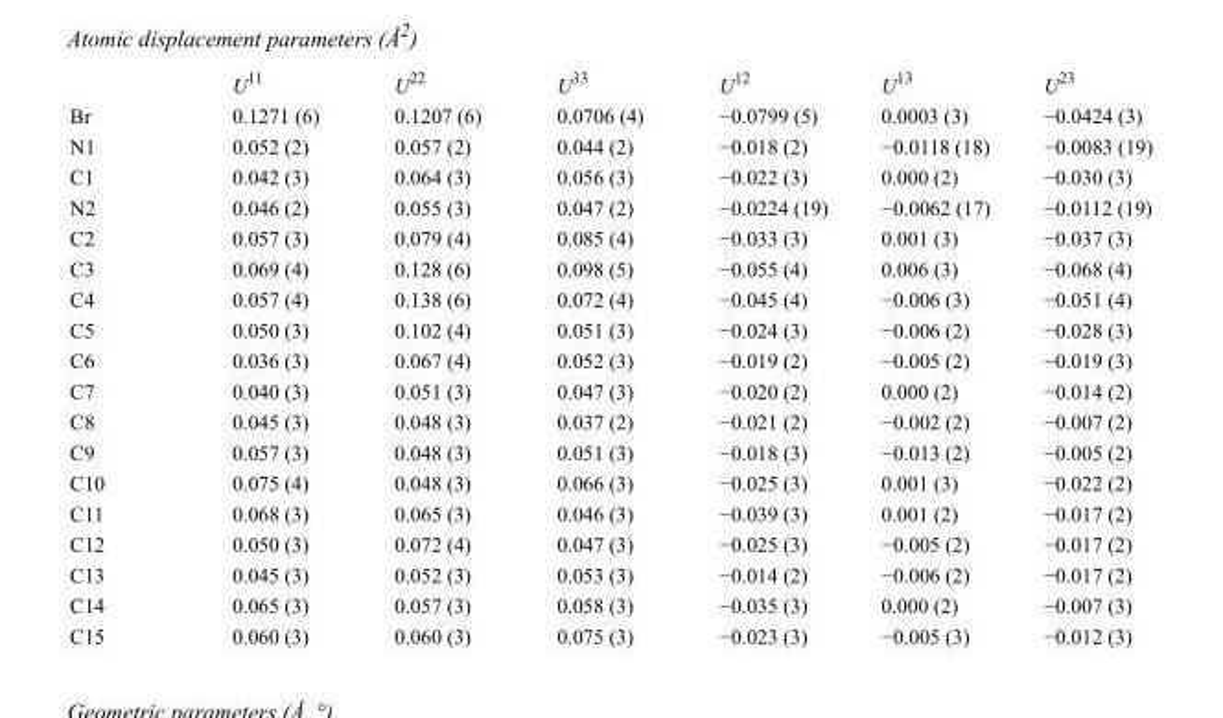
<table><thead><tr><td></td><td>U<sup>11</sup></td><td>U<sup>22</sup></td><td>U<sup>33</sup></td><td>U<sup>12</sup></td><td>U<sup>13</sup></td><td>U<sup>23</sup></td></tr></thead><tbody><tr><td>Br</td><td>0.1271 (6)</td><td>0.1207 (6)</td><td>0.0706 (4)</td><td>−0.0799 (5)</td><td>0.0003 (3)</td><td>−0.0424 (3)</td></tr><tr><td>N1</td><td>0.052 (2)</td><td>0.057 (2)</td><td>0.044 (2)</td><td>−0.018 (2)</td><td>−0.0118 (18)</td><td>−0.0083 (19)</td></tr><tr><td>C1</td><td>0.042 (3)</td><td>0.064 (3)</td><td>0.056 (3)</td><td>−0.022 (3)</td><td>0.000 (2)</td><td>−0.030 (3)</td></tr><tr><td>N2</td><td>0.046 (2)</td><td>0.055 (3)</td><td>0.047 (2)</td><td>−0.0224 (19)</td><td>−0.0062 (17)</td><td>−0.0112 (19)</td></tr><tr><td>C2</td><td>0.057 (3)</td><td>0.079 (4)</td><td>0.085 (4)</td><td>−0.033 (3)</td><td>0.001 (3)</td><td>−0.037 (3)</td></tr><tr><td>C3</td><td>0.069 (4)</td><td>0.128 (6)</td><td>0.098 (5)</td><td>−0.055 (4)</td><td>0.006 (3)</td><td>−0.068 (4)</td></tr><tr><td>C4</td><td>0.057 (4)</td><td>0.138 (6)</td><td>0.072 (4)</td><td>−0.045 (4)</td><td>−0.006 (3)</td><td>−0.051 (4)</td></tr><tr><td>C5</td><td>0.050 (3)</td><td>0.102 (4)</td><td>0.051 (3)</td><td>−0.024 (3)</td><td>−0.006 (2)</td><td>−0.028 (3)</td></tr><tr><td>C6</td><td>0.036 (3)</td><td>0.067 (4)</td><td>0.052 (3)</td><td>−0.019 (2)</td><td>−0.005 (2)</td><td>−0.019 (3)</td></tr><tr><td>C7</td><td>0.040 (3)</td><td>0.051 (3)</td><td>0.047 (3)</td><td>−0.020 (2)</td><td>0.000 (2)</td><td>−0.014 (2)</td></tr><tr><td>C8</td><td>0.045 (3)</td><td>0.048 (3)</td><td>0.037 (2)</td><td>−0.021 (2)</td><td>−0.002 (2)</td><td>−0.007 (2)</td></tr><tr><td>C9</td><td>0.057 (3)</td><td>0.048 (3)</td><td>0.051 (3)</td><td>−0.018 (3)</td><td>−0.013 (2)</td><td>−0.005 (2)</td></tr><tr><td>C10</td><td>0.075 (4)</td><td>0.048 (3)</td><td>0.066 (3)</td><td>−0.025 (3)</td><td>0.001 (3)</td><td>−0.022 (2)</td></tr><tr><td>C11</td><td>0.068 (3)</td><td>0.065 (3)</td><td>0.046 (3)</td><td>−0.039 (3)</td><td>0.001 (2)</td><td>−0.017 (2)</td></tr><tr><td>C12</td><td>0.050 (3)</td><td>0.072 (4)</td><td>0.047 (3)</td><td>−0.025 (3)</td><td>−0.005 (2)</td><td>−0.017 (2)</td></tr><tr><td>C13</td><td>0.045 (3)</td><td>0.052 (3)</td><td>0.053 (3)</td><td>−0.014 (2)</td><td>−0.006 (2)</td><td>−0.017 (2)</td></tr><tr><td>C14</td><td>0.065 (3)</td><td>0.057 (3)</td><td>0.058 (3)</td><td>−0.035 (3)</td><td>0.000 (2)</td><td>−0.007 (3)</td></tr><tr><td>C15</td><td>0.060 (3)</td><td>0.060 (3)</td><td>0.075 (3)</td><td>−0.023 (3)</td><td>−0.005 (3)</td><td>−0.012 (3)</td></tr></tbody></table>